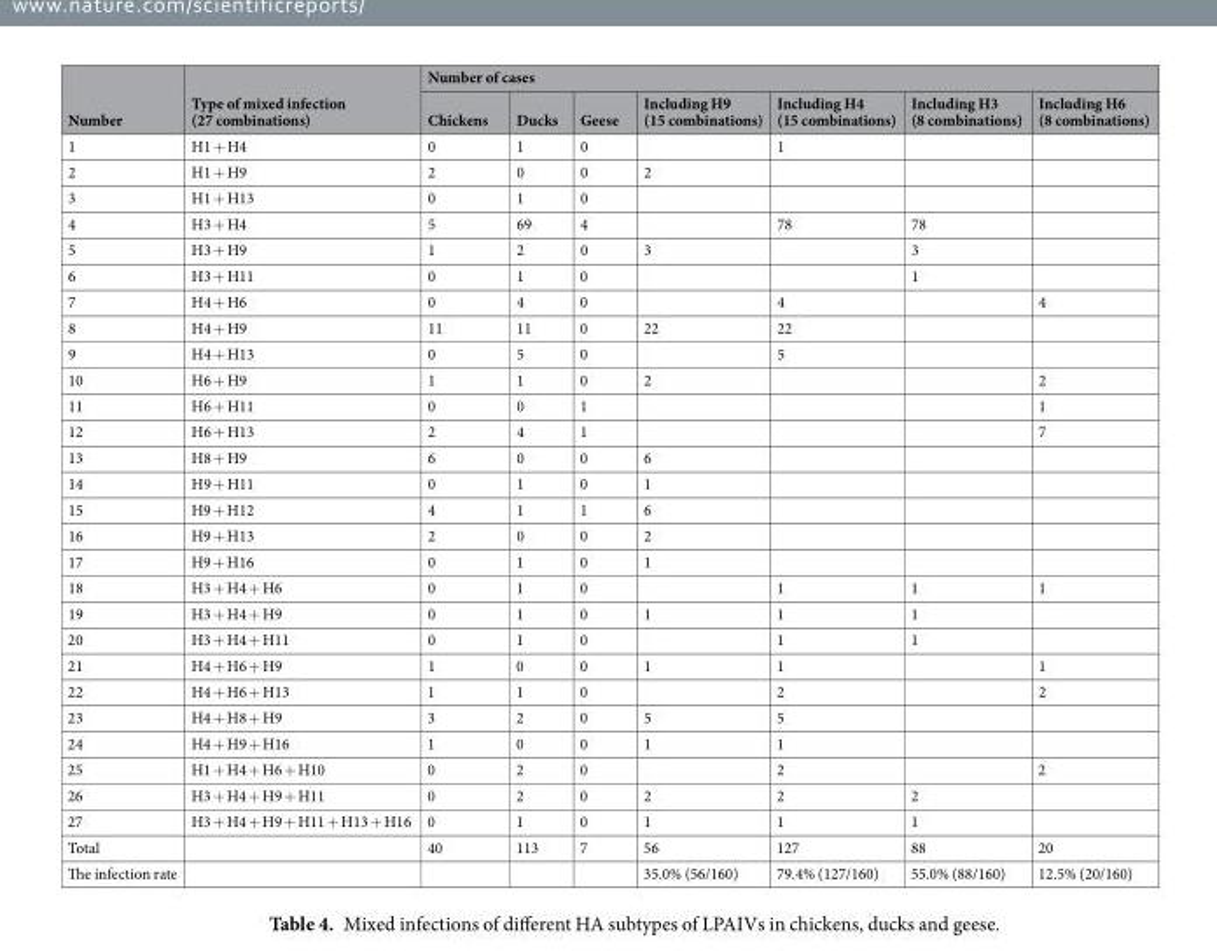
<table><thead><tr><td rowspan="2">Number</td><td rowspan="2">Type of mixed infection (27 combinations)</td><td colspan="7">Number of cases</td></tr><tr><td>Chickens</td><td>Ducks</td><td>Geese</td><td>Including H9 (15 combinations)</td><td>Including H4 (15 combinations)</td><td>Including H3 (8 combinations)</td><td>Including H6 (8 combinations)</td></tr></thead><tbody><tr><td>1</td><td>H1 + H4</td><td>0</td><td>1</td><td>0</td><td></td><td>1</td><td></td><td></td></tr><tr><td>2</td><td>H1 + H9</td><td>2</td><td>0</td><td>0</td><td>2</td><td></td><td></td><td></td></tr><tr><td>3</td><td>H1 + H13</td><td>0</td><td>1</td><td>0</td><td></td><td></td><td></td><td></td></tr><tr><td>4</td><td>H3 + H4</td><td>5</td><td>69</td><td>4</td><td></td><td>78</td><td>78</td><td></td></tr><tr><td>5</td><td>H3 + H9</td><td>1</td><td>2</td><td>0</td><td>3</td><td></td><td>3</td><td></td></tr><tr><td>6</td><td>H3 + H11</td><td>0</td><td>1</td><td>0</td><td></td><td></td><td>1</td><td></td></tr><tr><td>7</td><td>H4 + H6</td><td>0</td><td>4</td><td>0</td><td></td><td>4</td><td></td><td>4</td></tr><tr><td>8</td><td>H4 + H9</td><td>11</td><td>11</td><td>0</td><td>22</td><td>22</td><td></td><td></td></tr><tr><td>9</td><td>H4 + H13</td><td>0</td><td>5</td><td>0</td><td></td><td>5</td><td></td><td></td></tr><tr><td>10</td><td>H6 + H9</td><td>1</td><td>1</td><td>0</td><td>2</td><td></td><td></td><td>2</td></tr><tr><td>11</td><td>H6 + H11</td><td>0</td><td>0</td><td>1</td><td></td><td></td><td></td><td>1</td></tr><tr><td>12</td><td>H6 + H13</td><td>2</td><td>4</td><td>1</td><td></td><td></td><td></td><td>7</td></tr><tr><td>13</td><td>H8 + H9</td><td>6</td><td>0</td><td>0</td><td>6</td><td></td><td></td><td></td></tr><tr><td>14</td><td>H9 + H11</td><td>0</td><td>1</td><td>0</td><td>1</td><td></td><td></td><td></td></tr><tr><td>15</td><td>H9 + H12</td><td>4</td><td>1</td><td>1</td><td>6</td><td></td><td></td><td></td></tr><tr><td>16</td><td>H9 + H13</td><td>2</td><td>0</td><td>0</td><td>2</td><td></td><td></td><td></td></tr><tr><td>17</td><td>H9 + H16</td><td>0</td><td>1</td><td>0</td><td>1</td><td></td><td></td><td></td></tr><tr><td>18</td><td>H3 + H4 + H6</td><td>0</td><td>1</td><td>0</td><td></td><td>1</td><td>1</td><td>1</td></tr><tr><td>19</td><td>H3 + H4 + H9</td><td>0</td><td>1</td><td>0</td><td>1</td><td>1</td><td>1</td><td></td></tr><tr><td>20</td><td>H3 + H4 + H11</td><td>0</td><td>1</td><td>0</td><td></td><td>1</td><td>1</td><td></td></tr><tr><td>21</td><td>H4 + H6 + H9</td><td>1</td><td>0</td><td>0</td><td>1</td><td>1</td><td></td><td>1</td></tr><tr><td>22</td><td>H4 + H6 + H13</td><td>1</td><td>1</td><td>0</td><td></td><td>2</td><td></td><td>2</td></tr><tr><td>23</td><td>H4 + H8 + H9</td><td>3</td><td>2</td><td>0</td><td>5</td><td>5</td><td></td><td></td></tr><tr><td>24</td><td>H4 + H9 + H16</td><td>1</td><td>0</td><td>0</td><td>1</td><td>1</td><td></td><td></td></tr><tr><td>25</td><td>H1 + H4 + H6 + H10</td><td>0</td><td>2</td><td>0</td><td></td><td>2</td><td></td><td>2</td></tr><tr><td>26</td><td>H3 + H4 + H9 + H11</td><td>0</td><td>2</td><td>0</td><td>2</td><td>2</td><td>2</td><td></td></tr><tr><td>27</td><td>H3 + H4 + H9 + H11 + H13 + H16</td><td>0</td><td>1</td><td>0</td><td>1</td><td>1</td><td>1</td><td></td></tr><tr><td>Total</td><td></td><td>40</td><td>113</td><td>7</td><td>56</td><td>127</td><td>88</td><td>20</td></tr><tr><td>The infection rate</td><td></td><td></td><td></td><td></td><td>35.0% (56/160)</td><td>79.4% (127/160)</td><td>55.0% (88/160)</td><td>12.5% (20/160)</td></tr></tbody></table>